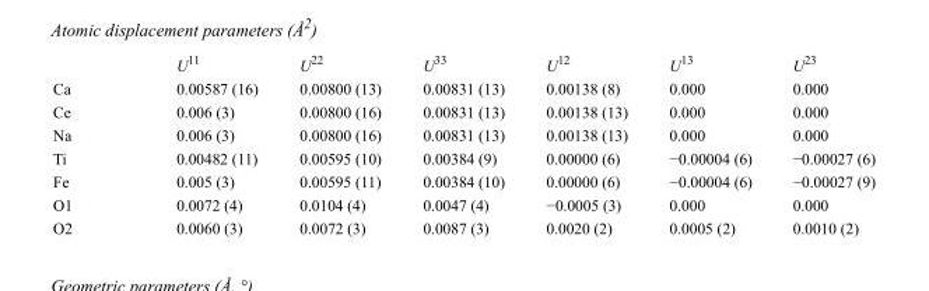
<table><thead><tr><td></td><td>U<sup>11</sup></td><td>U<sup>22</sup></td><td>U<sup>33</sup></td><td>U<sup>12</sup></td><td>U<sup>13</sup></td><td>U<sup>23</sup></td></tr></thead><tbody><tr><td>Ca</td><td>0.00587 (16)</td><td>0.00800 (13)</td><td>0.00831 (13)</td><td>0.00138 (8)</td><td>0.000</td><td>0.000</td></tr><tr><td>Ce</td><td>0.006 (3)</td><td>0.00800 (16)</td><td>0.00831 (13)</td><td>0.00138 (13)</td><td>0.000</td><td>0.000</td></tr><tr><td>Na</td><td>0.006 (3)</td><td>0.00800 (16)</td><td>0.00831 (13)</td><td>0.00138 (13)</td><td>0.000</td><td>0.000</td></tr><tr><td>Ti</td><td>0.00482 (11)</td><td>0.00595 (10)</td><td>0.00384 (9)</td><td>0.00000 (6)</td><td>−0.00004 (6)</td><td>−0.00027 (6)</td></tr><tr><td>Fe</td><td>0.005 (3)</td><td>0.00595 (11)</td><td>0.00384 (10)</td><td>0.00000 (6)</td><td>−0.00004 (6)</td><td>−0.00027 (9)</td></tr><tr><td>O1</td><td>0.0072 (4)</td><td>0.0104 (4)</td><td>0.0047 (4)</td><td>−0.0005 (3)</td><td>0.000</td><td>0.000</td></tr><tr><td>O2</td><td>0.0060 (3)</td><td>0.0072 (3)</td><td>0.0087 (3)</td><td>0.0020 (2)</td><td>0.0005 (2)</td><td>0.0010 (2)</td></tr></tbody></table>